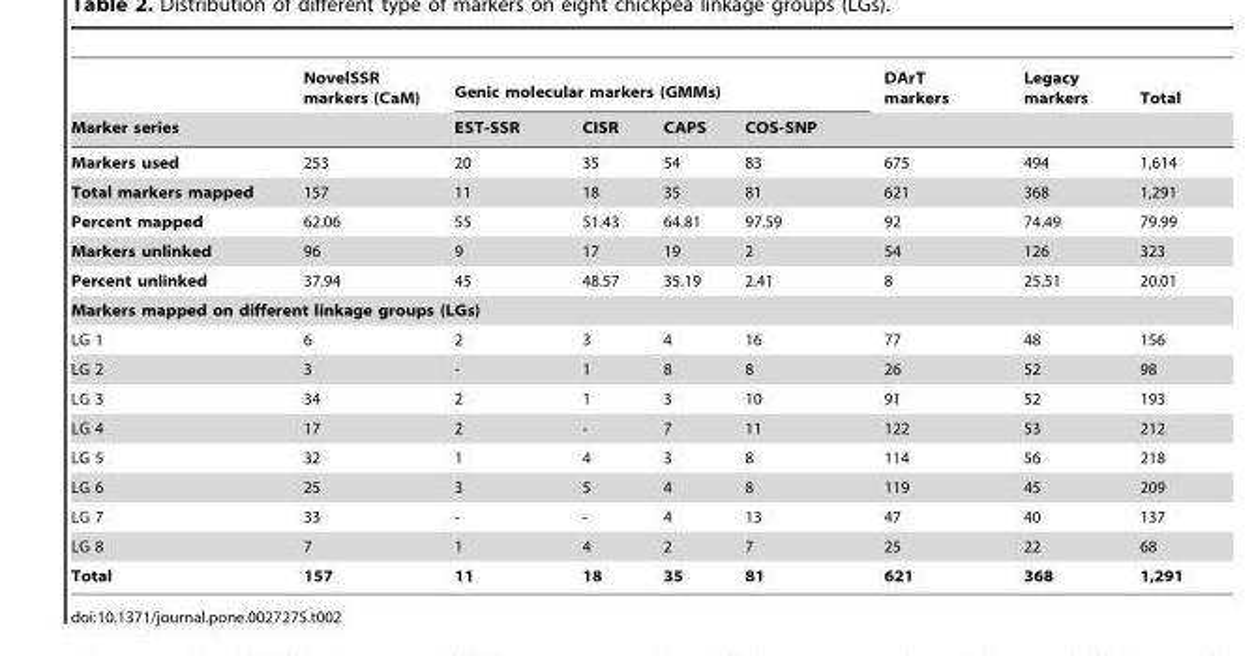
<table><thead><tr><td rowspan="2">Marker series</td><td rowspan="2">NovelSSR markers (CaM)</td><td colspan="4">Genic molecular markers (GMMs)</td><td rowspan="2">DArT markers</td><td rowspan="2">Legacy markers</td><td rowspan="2">Total</td></tr><tr><td>EST-SSR</td><td>CISR</td><td>CAPS</td><td>COS-SNP</td></tr></thead><tbody><tr><td>Markers used</td><td>253</td><td>20</td><td>35</td><td>54</td><td>83</td><td>675</td><td>494</td><td>1,614</td></tr><tr><td>Total markers mapped</td><td>157</td><td>11</td><td>18</td><td>35</td><td>81</td><td>621</td><td>368</td><td>1,291</td></tr><tr><td>Percent mapped</td><td>62.06</td><td>55</td><td>51.43</td><td>64.81</td><td>97.59</td><td>92</td><td>74.49</td><td>79.99</td></tr><tr><td>Markers unlinked</td><td>96</td><td>9</td><td>17</td><td>19</td><td>2</td><td>54</td><td>126</td><td>323</td></tr><tr><td>Percent unlinked</td><td>37.94</td><td>45</td><td>48.57</td><td>35.19</td><td>2.41</td><td>8</td><td>25.51</td><td>20.01</td></tr><tr><td colspan="9">Markers mapped on different linkage groups (LGs)</td></tr><tr><td>LG 1</td><td>6</td><td>2</td><td>3</td><td>4</td><td>16</td><td>77</td><td>48</td><td>156</td></tr><tr><td>LG 2</td><td>3</td><td>-</td><td>1</td><td>8</td><td>8</td><td>26</td><td>52</td><td>98</td></tr><tr><td>LG 3</td><td>34</td><td>2</td><td>1</td><td>3</td><td>10</td><td>91</td><td>52</td><td>193</td></tr><tr><td>LG 4</td><td>17</td><td>2</td><td>-</td><td>7</td><td>11</td><td>122</td><td>53</td><td>212</td></tr><tr><td>LG 5</td><td>32</td><td>1</td><td>4</td><td>3</td><td>8</td><td>114</td><td>56</td><td>218</td></tr><tr><td>LG 6</td><td>25</td><td>3</td><td>5</td><td>4</td><td>8</td><td>119</td><td>45</td><td>209</td></tr><tr><td>LG 7</td><td>33</td><td>-</td><td>-</td><td>4</td><td>13</td><td>47</td><td>40</td><td>137</td></tr><tr><td>LG 8</td><td>7</td><td>1</td><td>4</td><td>2</td><td>7</td><td>25</td><td>22</td><td>68</td></tr><tr><td>Total</td><td>157</td><td>11</td><td>18</td><td>35</td><td>81</td><td>621</td><td>368</td><td>1,291</td></tr></tbody></table>